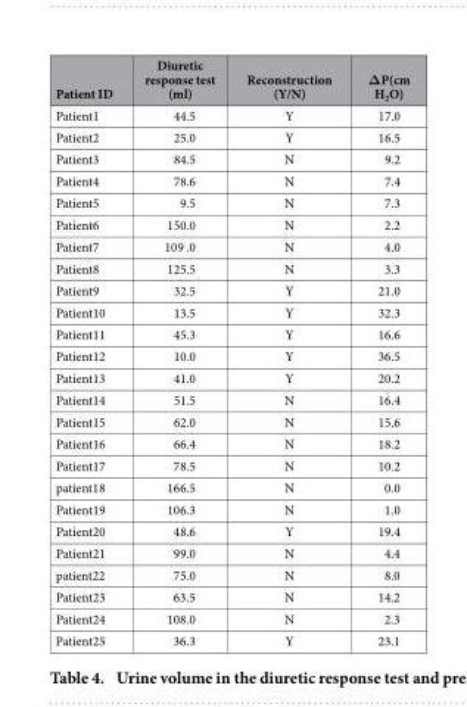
<table><thead><tr><td>Patient ID</td><td>Diuretic response test (ml)</td><td>Reconstruction (Y/N)</td><td>ΔP(cm H<sub>2</sub>O)</td></tr></thead><tbody><tr><td>Patient1</td><td>44.5</td><td>Y</td><td>17.0</td></tr><tr><td>Patient2</td><td>25.0</td><td>Y</td><td>16.5</td></tr><tr><td>Patient3</td><td>84.5</td><td>N</td><td>9.2</td></tr><tr><td>Patient4</td><td>78.6</td><td>N</td><td>7.4</td></tr><tr><td>Patient5</td><td>9.5</td><td>N</td><td>7.3</td></tr><tr><td>Patient6</td><td>150.0</td><td>N</td><td>2.2</td></tr><tr><td>Patient7</td><td>109 .0</td><td>N</td><td>4.0</td></tr><tr><td>Patient8</td><td>125.5</td><td>N</td><td>3.3</td></tr><tr><td>Patient9</td><td>32.5</td><td>Y</td><td>21.0</td></tr><tr><td>Patient10</td><td>13.5</td><td>Y</td><td>32.3</td></tr><tr><td>Patient11</td><td>45.3</td><td>Y</td><td>16.6</td></tr><tr><td>Patient12</td><td>10.0</td><td>Y</td><td>36.5</td></tr><tr><td>Patient13</td><td>41.0</td><td>Y</td><td>20.2</td></tr><tr><td>Patient14</td><td>51.5</td><td>N</td><td>16.4</td></tr><tr><td>Patient15</td><td>62.0</td><td>N</td><td>15.6</td></tr><tr><td>Patient16</td><td>66.4</td><td>N</td><td>18.2</td></tr><tr><td>Patient17</td><td>78.5</td><td>N</td><td>10.2</td></tr><tr><td>patient18</td><td>166.5</td><td>N</td><td>0.0</td></tr><tr><td>Patient19</td><td>106.3</td><td>N</td><td>1.0</td></tr><tr><td>Patient20</td><td>48.6</td><td>Y</td><td>19.4</td></tr><tr><td>Patient21</td><td>99.0</td><td>N</td><td>4.4</td></tr><tr><td>patient22</td><td>75.0</td><td>N</td><td>8.0</td></tr><tr><td>Patient23</td><td>63.5</td><td>N</td><td>14.2</td></tr><tr><td>Patient24</td><td>108.0</td><td>N</td><td>2.3</td></tr><tr><td>Patient25</td><td>36.3</td><td>Y</td><td>23.1</td></tr></tbody></table>